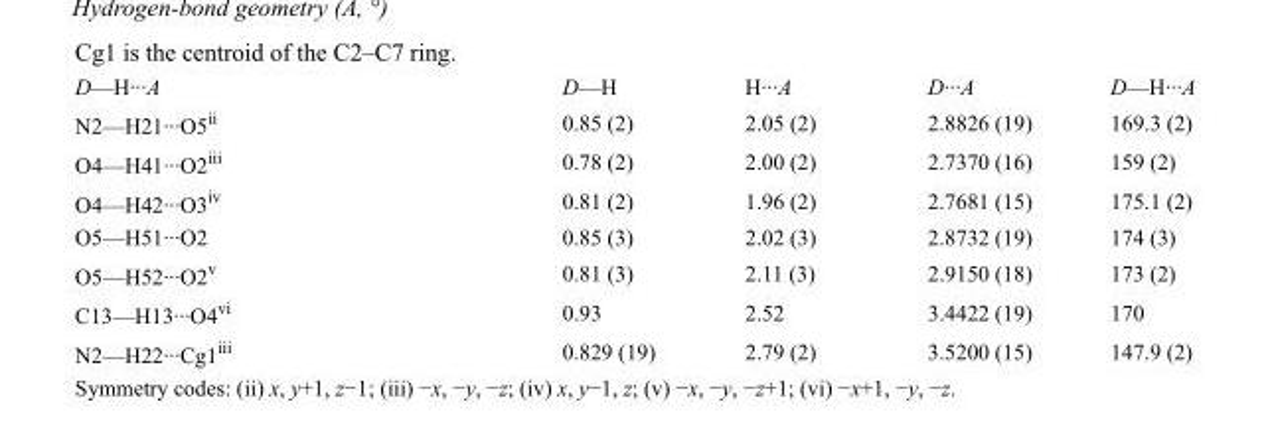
<table><tbody><tr><td>D—H···A</td><td>D—H</td><td>H···A</td><td>D···A</td><td>D—H···A</td></tr><tr><td>N2—H21···O5<sup>ii</sup></td><td>0.85 (2)</td><td>2.05 (2)</td><td>2.8826 (19)</td><td>169.3 (2)</td></tr><tr><td>O4—H41···O2<sup>iii</sup></td><td>0.78 (2)</td><td>2.00 (2)</td><td>2.7370 (16)</td><td>159 (2)</td></tr><tr><td>O4—H42···O3<sup>iv</sup></td><td>0.81 (2)</td><td>1.96 (2)</td><td>2.7681 (15)</td><td>175.1 (2)</td></tr><tr><td>O5—H51···O2</td><td>0.85 (3)</td><td>2.02 (3)</td><td>2.8732 (19)</td><td>174 (3)</td></tr><tr><td>O5—H52···O2<sup>v</sup></td><td>0.81 (3)</td><td>2.11 (3)</td><td>2.9150 (18)</td><td>173 (2)</td></tr><tr><td>C13—H13···O4<sup>vi</sup></td><td>0.93</td><td>2.52</td><td>3.4422 (19)</td><td>170</td></tr><tr><td>N2—H22···Cg1<sup>iii</sup></td><td>0.829 (19)</td><td>2.79 (2)</td><td>3.5200 (15)</td><td>147.9 (2)</td></tr></tbody></table>